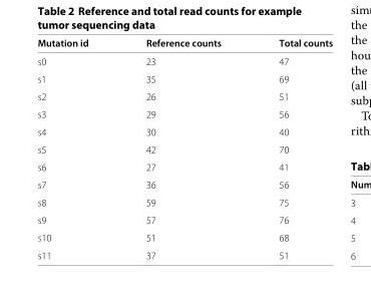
<table><thead><tr><td>Mutation id</td><td>Reference counts</td><td>Total counts</td></tr></thead><tbody><tr><td>s0</td><td>23</td><td>47</td></tr><tr><td>s1</td><td>35</td><td>69</td></tr><tr><td>s2</td><td>26</td><td>51</td></tr><tr><td>s3</td><td>29</td><td>56</td></tr><tr><td>s4</td><td>30</td><td>40</td></tr><tr><td>s5</td><td>42</td><td>70</td></tr><tr><td>s6</td><td>27</td><td>41</td></tr><tr><td>s7</td><td>36</td><td>56</td></tr><tr><td>s8</td><td>59</td><td>75</td></tr><tr><td>s9</td><td>57</td><td>76</td></tr><tr><td>s10</td><td>51</td><td>68</td></tr><tr><td>s11</td><td>37</td><td>51</td></tr></tbody></table>